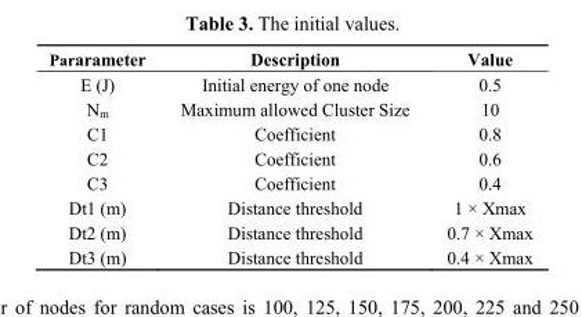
<table><thead><tr><td>Pararameter</td><td>Description</td><td>Value</td></tr></thead><tbody><tr><td>E (J)</td><td>Initial energy of one node</td><td>0.5</td></tr><tr><td>N<sub>m</sub></td><td>Maximum allowed Cluster Size</td><td>10</td></tr><tr><td>C1</td><td>Coefficient</td><td>0.8</td></tr><tr><td>C2</td><td>Coefficient</td><td>0.6</td></tr><tr><td>C3</td><td>Coefficient</td><td>0.4</td></tr><tr><td>Dt1 (m)</td><td>Distance threshold</td><td>1 × Xmax</td></tr><tr><td>Dt2 (m)</td><td>Distance threshold</td><td>0.7 × Xmax</td></tr><tr><td>Dt3 (m)</td><td>Distance threshold</td><td>0.4 × Xmax</td></tr></tbody></table>